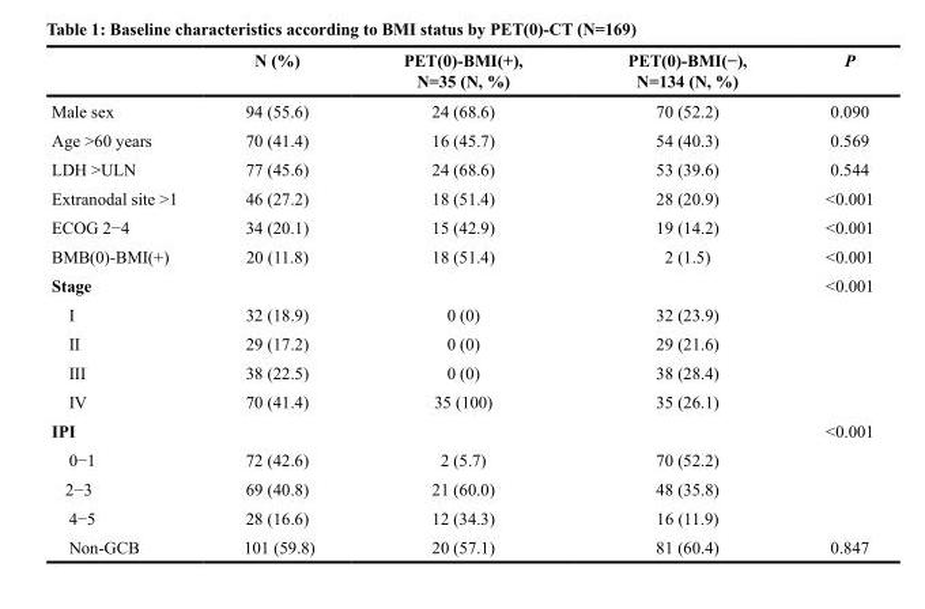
<table><thead><tr><td></td><td>N (%)</td><td>PET(0)-BMI(+), N=35 (N, %)</td><td>PET(0)-BMI(−), N=134 (N, %)</td><td>P</td></tr></thead><tbody><tr><td>Male sex</td><td>94 (55.6)</td><td>24 (68.6)</td><td>70 (52.2)</td><td>0.090</td></tr><tr><td>Age &gt;60 years</td><td>70 (41.4)</td><td>16 (45.7)</td><td>54 (40.3)</td><td>0.569</td></tr><tr><td>LDH &gt;ULN</td><td>77 (45.6)</td><td>24 (68.6)</td><td>53 (39.6)</td><td>0.544</td></tr><tr><td>Extranodal site &gt;1</td><td>46 (27.2)</td><td>18 (51.4)</td><td>28 (20.9)</td><td>&lt;0.001</td></tr><tr><td>ECOG 2−4</td><td>34 (20.1)</td><td>15 (42.9)</td><td>19 (14.2)</td><td>&lt;0.001</td></tr><tr><td>BMB(0)-BMI(+)</td><td>20 (11.8)</td><td>18 (51.4)</td><td>2 (1.5)</td><td>&lt;0.001</td></tr><tr><td>Stage</td><td></td><td></td><td></td><td>&lt;0.001</td></tr><tr><td>I</td><td>32 (18.9)</td><td>0 (0)</td><td>32 (23.9)</td><td></td></tr><tr><td>II</td><td>29 (17.2)</td><td>0 (0)</td><td>29 (21.6)</td><td></td></tr><tr><td>III</td><td>38 (22.5)</td><td>0 (0)</td><td>38 (28.4)</td><td></td></tr><tr><td>IV</td><td>70 (41.4)</td><td>35 (100)</td><td>35 (26.1)</td><td></td></tr><tr><td>IPI</td><td></td><td></td><td></td><td>&lt;0.001</td></tr><tr><td>0−1</td><td>72 (42.6)</td><td>2 (5.7)</td><td>70 (52.2)</td><td></td></tr><tr><td>2−3</td><td>69 (40.8)</td><td>21 (60.0)</td><td>48 (35.8)</td><td></td></tr><tr><td>4−5</td><td>28 (16.6)</td><td>12 (34.3)</td><td>16 (11.9)</td><td></td></tr><tr><td>Non-GCB</td><td>101 (59.8)</td><td>20 (57.1)</td><td>81 (60.4)</td><td>0.847</td></tr></tbody></table>